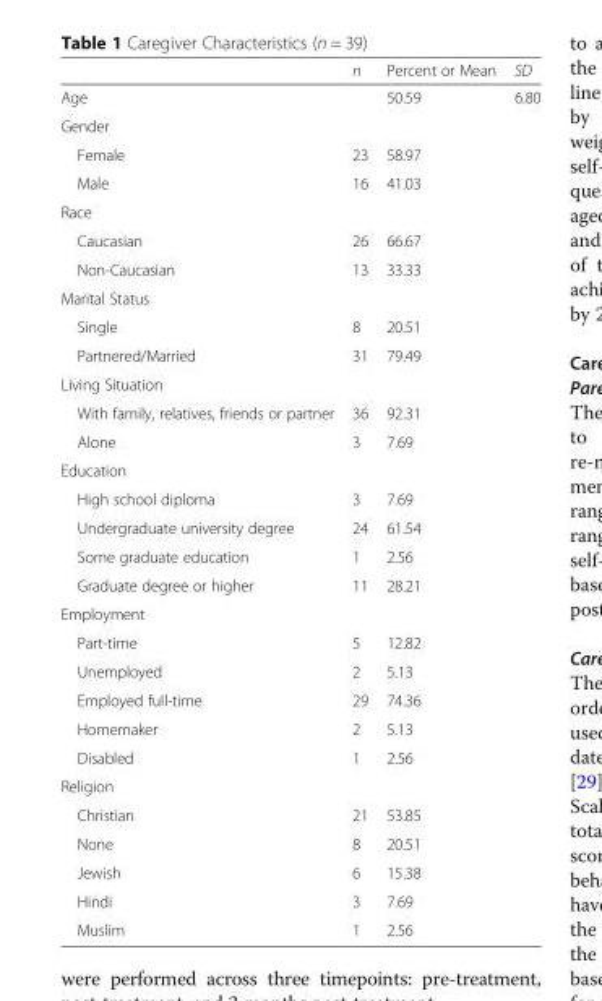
<table><thead><tr><td></td><td>n</td><td>Percent or Mean</td><td>SD</td></tr></thead><tbody><tr><td>Age</td><td></td><td>50.59</td><td>6.80</td></tr><tr><td colspan="4">Gender</td></tr><tr><td>Female</td><td>23</td><td>58.97</td><td></td></tr><tr><td>Male</td><td>16</td><td>41.03</td><td></td></tr><tr><td colspan="4">Race</td></tr><tr><td>Caucasian</td><td>26</td><td>66.67</td><td></td></tr><tr><td>Non-Caucasian</td><td>13</td><td>33.33</td><td></td></tr><tr><td colspan="4">Marital Status</td></tr><tr><td>Single</td><td>8</td><td>20.51</td><td></td></tr><tr><td>Partnered/Married</td><td>31</td><td>79.49</td><td></td></tr><tr><td colspan="4">Living Situation</td></tr><tr><td>With family, relatives, friends or partner</td><td>36</td><td>92.31</td><td></td></tr><tr><td>Alone</td><td>3</td><td>7.69</td><td></td></tr><tr><td colspan="4">Education</td></tr><tr><td>High school diploma</td><td>3</td><td>7.69</td><td></td></tr><tr><td>Undergraduate university degree</td><td>24</td><td>61.54</td><td></td></tr><tr><td>Some graduate education</td><td>1</td><td>2.56</td><td></td></tr><tr><td>Graduate degree or higher</td><td>11</td><td>28.21</td><td></td></tr><tr><td colspan="4">Employment</td></tr><tr><td>Part-time</td><td>5</td><td>12.82</td><td></td></tr><tr><td>Unemployed</td><td>2</td><td>5.13</td><td></td></tr><tr><td>Employed full-time</td><td>29</td><td>74.36</td><td></td></tr><tr><td>Homemaker</td><td>2</td><td>5.13</td><td></td></tr><tr><td>Disabled</td><td>1</td><td>2.56</td><td></td></tr><tr><td colspan="4">Religion</td></tr><tr><td>Christian</td><td>21</td><td>53.85</td><td></td></tr><tr><td>None</td><td>8</td><td>20.51</td><td></td></tr><tr><td>Jewish</td><td>6</td><td>15.38</td><td></td></tr><tr><td>Hindi</td><td>3</td><td>7.69</td><td></td></tr><tr><td>Muslim</td><td>1</td><td>2.56</td><td></td></tr></tbody></table>